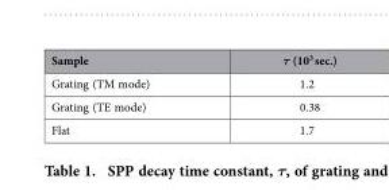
<table><thead><tr><td>Sample</td><td>τ (10<sup>3</sup> sec.)</td></tr></thead><tbody><tr><td>Grating (TM mode)</td><td>1.2</td></tr><tr><td>Grating (TE mode)</td><td>0.38</td></tr><tr><td>Flat</td><td>1.7</td></tr></tbody></table>